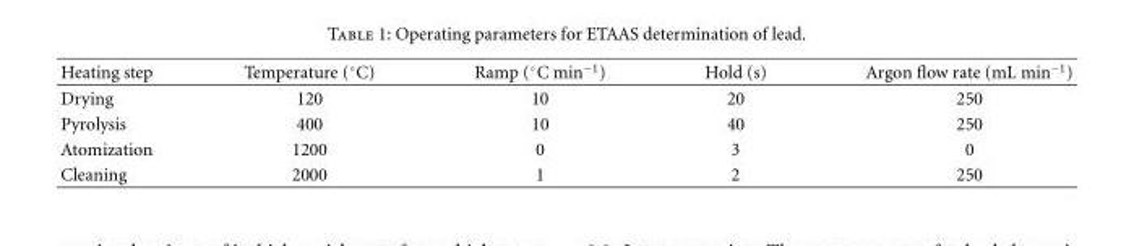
<table><thead><tr><td>Heating step</td><td>Temperature (◦C)</td><td>Ramp (◦C min−1)</td><td>Hold (s)</td><td>Argon flow rate (mL min<sup>−1</sup>)</td></tr></thead><tbody><tr><td>Drying</td><td>120</td><td>10</td><td>20</td><td>250</td></tr><tr><td>Pyrolysis</td><td>400</td><td>10</td><td>40</td><td>250</td></tr><tr><td>Atomization</td><td>1200</td><td>0</td><td>3</td><td>0</td></tr><tr><td>Cleaning</td><td>2000</td><td>1</td><td>2</td><td>250</td></tr></tbody></table>